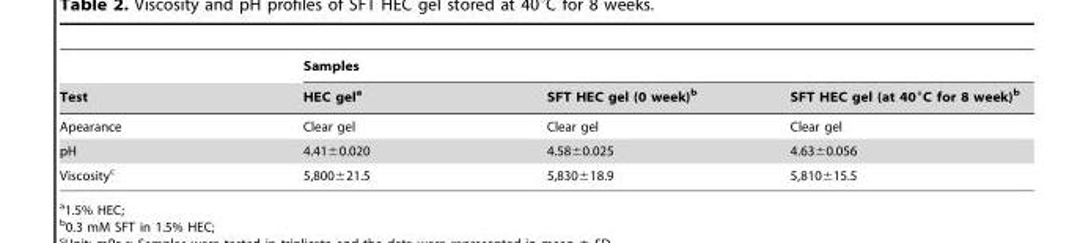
<table><thead><tr><td rowspan="2">Test</td><td colspan="3">Samples</td></tr><tr><td>HEC gel<sup>a</sup></td><td>SFT HEC gel (0 week)<sup>b</sup></td><td>SFT HEC gel (at 40°C for 8 week)<sup>b</sup></td></tr></thead><tbody><tr><td>Apearance</td><td>Clear gel</td><td>Clear gel</td><td>Clear gel</td></tr><tr><td>pH</td><td>4.41±0.020</td><td>4.58±0.025</td><td>4.63±0.056</td></tr><tr><td>Viscosity<sup>c</sup></td><td>5,800±21.5</td><td>5,830±18.9</td><td>5,810±15.5</td></tr></tbody></table>